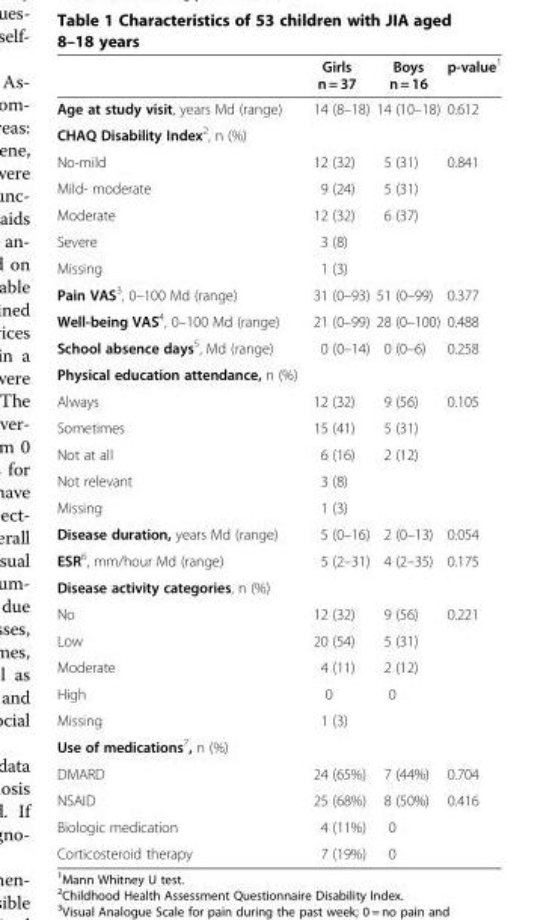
<table><thead><tr><td></td><td>Girls n = 37</td><td>Boys n = 16</td><td>p-value<sup>1</sup></td></tr></thead><tbody><tr><td>Age at study visit, years Md (range)</td><td>14 (8–18)</td><td>14 (10–18)</td><td>0.612</td></tr><tr><td colspan="4">CHAQ Disability Index<sup>2</sup>, n (%)</td></tr><tr><td>No-mild</td><td>12 (32)</td><td>5 (31)</td><td>0.841</td></tr><tr><td>Mild- moderate</td><td>9 (24)</td><td>5 (31)</td><td></td></tr><tr><td>Moderate</td><td>12 (32)</td><td>6 (37)</td><td></td></tr><tr><td>Severe</td><td>3 (8)</td><td></td><td></td></tr><tr><td>Missing</td><td>1 (3)</td><td></td><td></td></tr><tr><td>Pain VAS<sup>3</sup>, 0–100 Md (range)</td><td>31 (0–93)</td><td>51 (0–99)</td><td>0.377</td></tr><tr><td>Well-being VAS<sup>4</sup>, 0–100 Md (range)</td><td>21 (0–99)</td><td>28 (0–100)</td><td>0.488</td></tr><tr><td>School absence days<sup>5</sup>, Md (range)</td><td>0 (0–14)</td><td>0 (0–6)</td><td>0.258</td></tr><tr><td colspan="4">Physical education attendance, n (%)</td></tr><tr><td>Always</td><td>12 (32)</td><td>9 (56)</td><td>0.105</td></tr><tr><td>Sometimes</td><td>15 (41)</td><td>5 (31)</td><td></td></tr><tr><td>Not at all</td><td>6 (16)</td><td>2 (12)</td><td></td></tr><tr><td>Not relevant</td><td>3 (8)</td><td></td><td></td></tr><tr><td>Missing</td><td>1 (3)</td><td></td><td></td></tr><tr><td>Disease duration, years Md (range)</td><td>5 (0–16)</td><td>2 (0–13)</td><td>0.054</td></tr><tr><td>ESR<sup>6</sup>, mm/hour Md (range)</td><td>5 (2–31)</td><td>4 (2–35)</td><td>0.175</td></tr><tr><td colspan="4">Disease activity categories, n (%)</td></tr><tr><td>No</td><td>12 (32)</td><td>9 (56)</td><td>0.221</td></tr><tr><td>Low</td><td>20 (54)</td><td>5 (31)</td><td></td></tr><tr><td>Moderate</td><td>4 (11)</td><td>2 (12)</td><td></td></tr><tr><td>High</td><td>0</td><td>0</td><td></td></tr><tr><td>Missing</td><td>1 (3)</td><td></td><td></td></tr><tr><td colspan="4">Use of medications<sup>7</sup>, n (%)</td></tr><tr><td>DMARD</td><td>24 (65%)</td><td>7 (44%)</td><td>0.704</td></tr><tr><td>NSAID</td><td>25 (68%)</td><td>8 (50%)</td><td>0.416</td></tr><tr><td>Biologic medication</td><td>4 (11%)</td><td>0</td><td></td></tr><tr><td>Corticosteroid therapy</td><td>7 (19%)</td><td>0</td><td></td></tr></tbody></table>